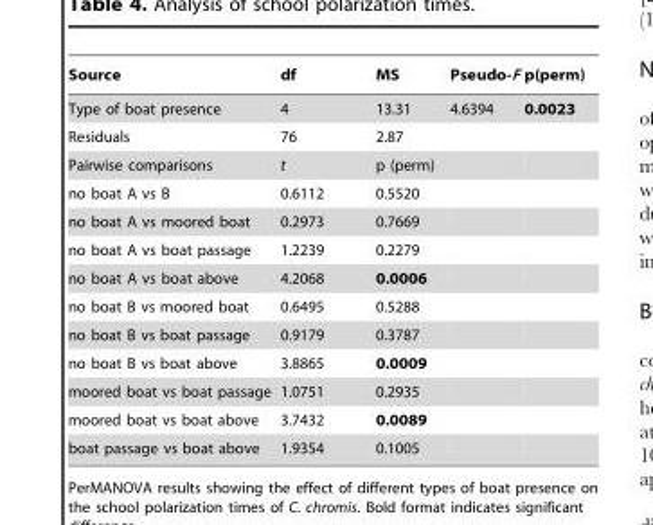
<table><thead><tr><td>Source</td><td>df</td><td>MS</td><td>Pseudo-F</td><td>p(perm)</td></tr></thead><tbody><tr><td>Type of boat presence</td><td>4</td><td>13.31</td><td>4.6394</td><td>0.0023</td></tr><tr><td>Residuals</td><td>76</td><td>2.87</td><td></td><td></td></tr><tr><td>Pairwise comparisons</td><td>t</td><td>p (perm)</td><td></td><td></td></tr><tr><td>no boat A vs B</td><td>0.6112</td><td>0.5520</td><td></td><td></td></tr><tr><td>no boat A vs moored boat</td><td>0.2973</td><td>0.7669</td><td></td><td></td></tr><tr><td>no boat A vs boat passage</td><td>1.2239</td><td>0.2279</td><td></td><td></td></tr><tr><td>no boat A vs boat above</td><td>4.2068</td><td>0.0006</td><td></td><td></td></tr><tr><td>no boat B vs moored boat</td><td>0.6495</td><td>0.5288</td><td></td><td></td></tr><tr><td>no boat B vs boat passage</td><td>0.9179</td><td>0.3787</td><td></td><td></td></tr><tr><td>no boat B vs boat above</td><td>3.8865</td><td>0.0009</td><td></td><td></td></tr><tr><td>moored boat vs boat passage</td><td>1.0751</td><td>0.2935</td><td></td><td></td></tr><tr><td>moored boat vs boat above</td><td>3.7432</td><td>0.0089</td><td></td><td></td></tr><tr><td>boat passage vs boat above</td><td>1.9354</td><td>0.1005</td><td></td><td></td></tr></tbody></table>